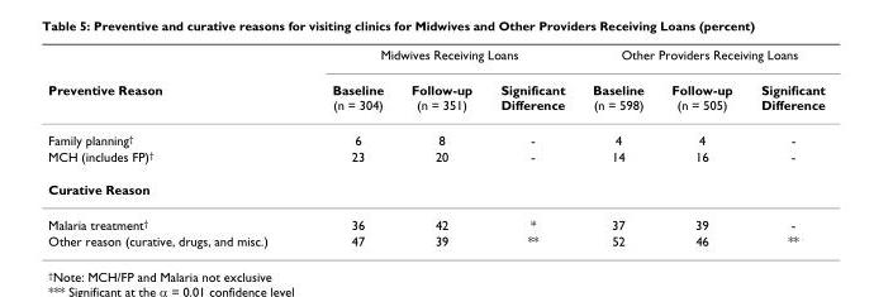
<table><thead><tr><td rowspan="2">Preventive Reason</td><td colspan="3">Midwives Receiving Loans</td><td colspan="3">Other Providers Receiving Loans</td></tr><tr><td>Baseline (n = 304)</td><td>Follow-up (n = 351)</td><td>Significant Difference</td><td>Baseline (n = 598)</td><td>Follow-up (n = 505)</td><td>Significant Difference</td></tr></thead><tbody><tr><td>Family planning<sup>†</sup></td><td>6</td><td>8</td><td>-</td><td>4</td><td>4</td><td>-</td></tr><tr><td>MCH (includes FP)<sup>†</sup></td><td>23</td><td>20</td><td>-</td><td>14</td><td>16</td><td>-</td></tr><tr><td colspan="7">Curative Reason</td></tr><tr><td>Malaria treatment<sup>†</sup></td><td>36</td><td>42</td><td>*</td><td>37</td><td>39</td><td>-</td></tr><tr><td>Other reason (curative, drugs, and misc.)</td><td>47</td><td>39</td><td>**</td><td>52</td><td>46</td><td>**</td></tr></tbody></table>